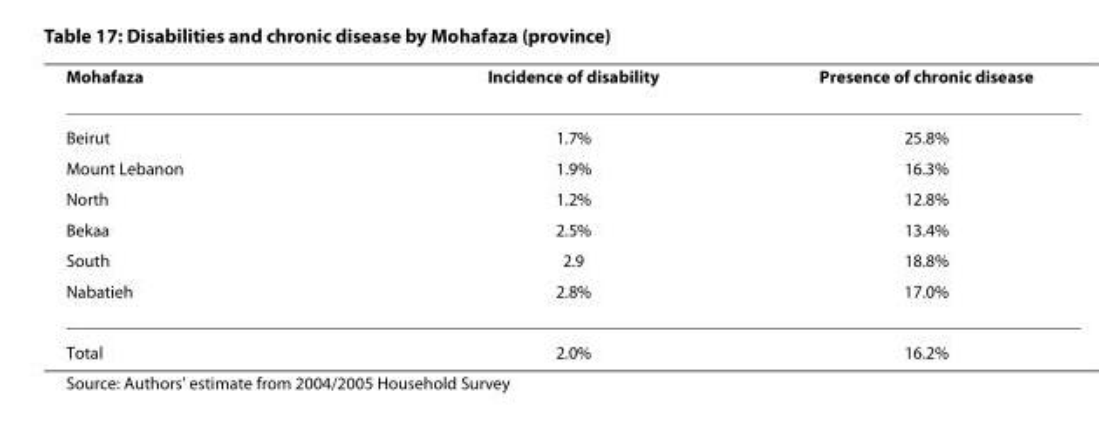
<table><thead><tr><td>Mohafaza</td><td>Incidence of disability</td><td>Presence of chronic disease</td></tr></thead><tbody><tr><td>Beirut</td><td>1.7%</td><td>25.8%</td></tr><tr><td>Mount Lebanon</td><td>1.9%</td><td>16.3%</td></tr><tr><td>North</td><td>1.2%</td><td>12.8%</td></tr><tr><td>Bekaa</td><td>2.5%</td><td>13.4%</td></tr><tr><td>South</td><td>2.9</td><td>18.8%</td></tr><tr><td>Nabatieh</td><td>2.8%</td><td>17.0%</td></tr><tr><td>Total</td><td>2.0%</td><td>16.2%</td></tr></tbody></table>